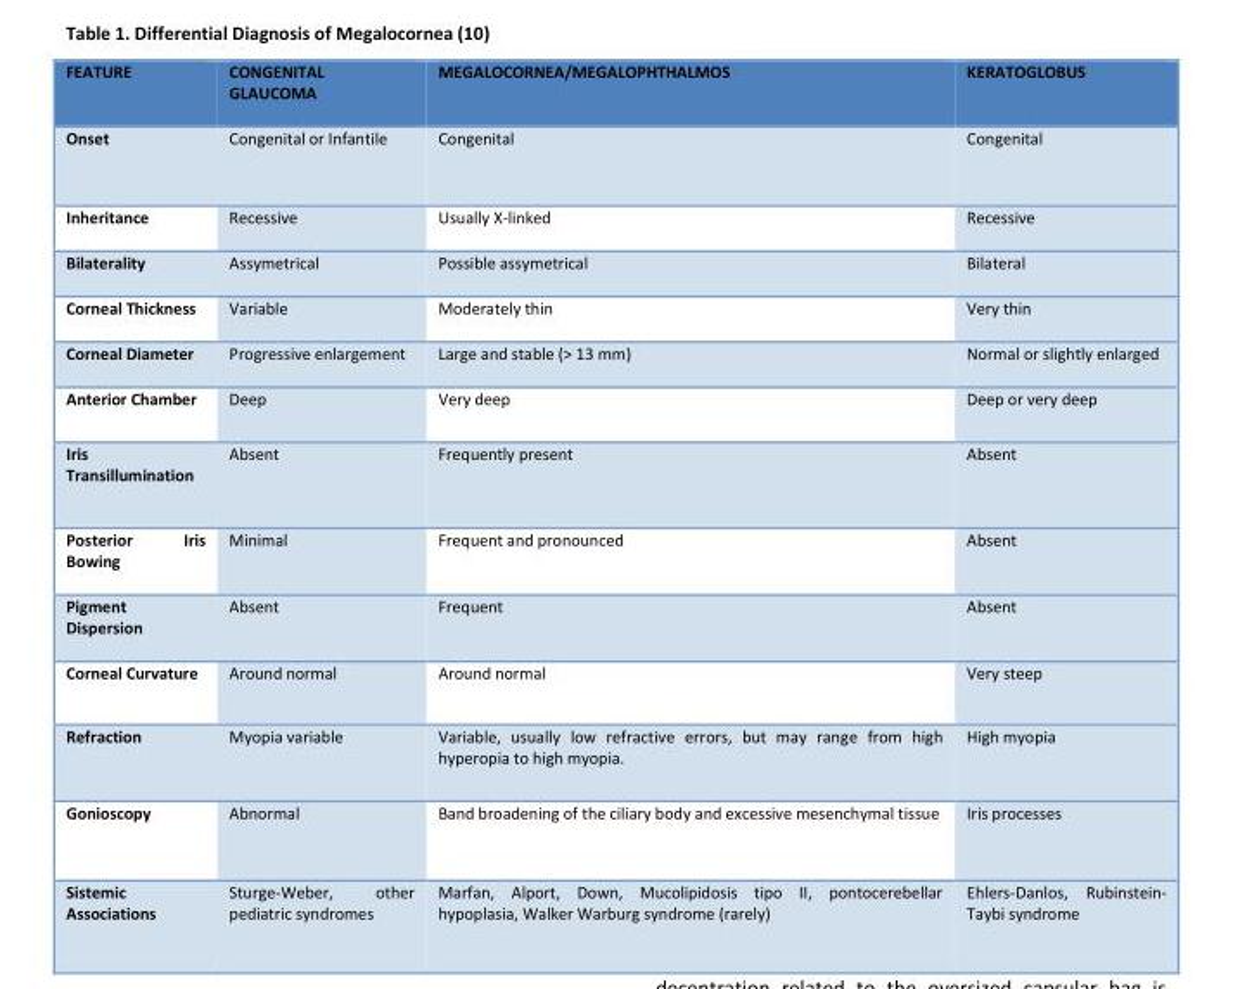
<table><thead><tr><td>FEATURE</td><td>CONGENITAL GLAUCOMA</td><td>MEGALOCORNEA/MEGALOPHTHALMOS</td><td>KERATOGLOBUS</td></tr></thead><tbody><tr><td>Onset</td><td>Congenital or Infantile</td><td>Congenital</td><td>Congenital</td></tr><tr><td>Inheritance</td><td>Recessive</td><td>Usually X-linked</td><td>Recessive</td></tr><tr><td>Bilaterality</td><td>Assymetrical</td><td>Possible assymetrical</td><td>Bilateral</td></tr><tr><td>Corneal Thickness</td><td>Variable</td><td>Moderately thin</td><td>Very thin</td></tr><tr><td>Corneal Diameter</td><td>Progressive enlargement</td><td>Large and stable (&gt; 13 mm)</td><td>Normal or slightly enlarged</td></tr><tr><td>Anterior Chamber</td><td>Deep</td><td>Very deep</td><td>Deep or very deep</td></tr><tr><td>Iris Transillumination</td><td>Absent</td><td>Frequently present</td><td>Absent</td></tr><tr><td>Posterior Iris Bowing</td><td>Minimal</td><td>Frequent and pronounced</td><td>Absent</td></tr><tr><td>Pigment Dispersion</td><td>Absent</td><td>Frequent</td><td>Absent</td></tr><tr><td>Corneal Curvature</td><td>Around normal</td><td>Around normal</td><td>Very steep</td></tr><tr><td>Refraction</td><td>Myopia variable</td><td>Variable, usually low refractive errors, but may range from high hyperopia to high myopia.</td><td>High myopia</td></tr><tr><td>Gonioscopy</td><td>Abnormal</td><td>Band broadening of the ciliary body and excessive mesenchymal tissue</td><td>Iris processes</td></tr><tr><td>Sistemic Associations</td><td>Sturge-Weber, other pediatric syndromes</td><td>Marfan, Alport, Down, Mucolipidosis tipo II, pontocerebellar hypoplasia, Walker Warburg syndrome (rarely)</td><td>Ehlers-Danlos, Rubinstein- Taybi syndrome</td></tr></tbody></table>